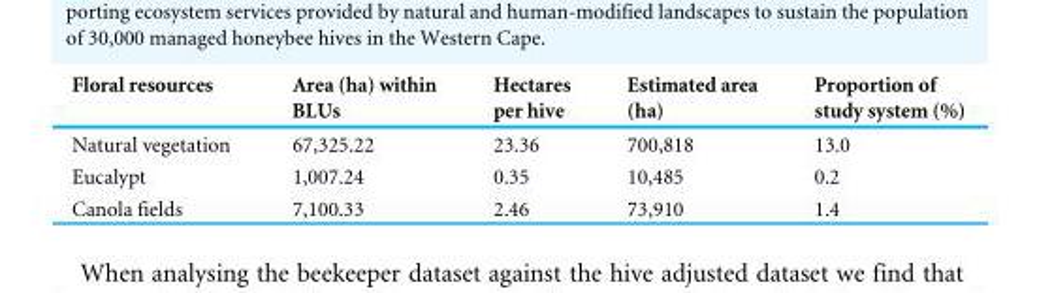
<table><thead><tr><td>Floral resources</td><td>Area (ha) within BLUs</td><td>Hectares per hive</td><td>Estimated area (ha)</td><td>Proportion of study system (%)</td></tr></thead><tbody><tr><td>Natural vegetation</td><td>67,325.22</td><td>23.36</td><td>700,818</td><td>13.0</td></tr><tr><td>Eucalypt</td><td>1,007.24</td><td>0.35</td><td>10,485</td><td>0.2</td></tr><tr><td>Canola fields</td><td>7,100.33</td><td>2.46</td><td>73,910</td><td>1.4</td></tr></tbody></table>